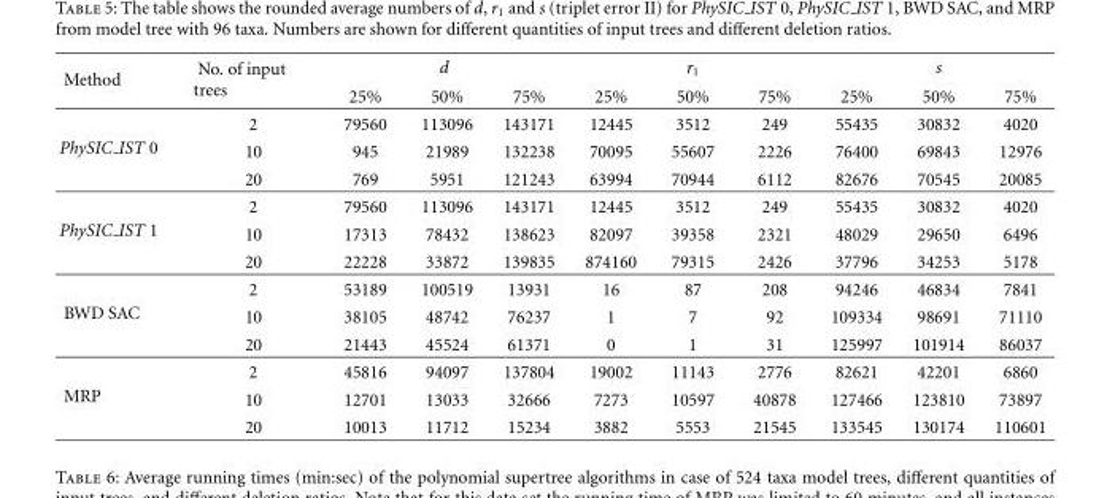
<table><thead><tr><td rowspan="2">Method</td><td rowspan="2">No. of input trees</td><td colspan="3">d</td><td colspan="3">r<sub>1</sub></td><td colspan="3">s</td></tr><tr><td>25%</td><td>50%</td><td>75%</td><td>25%</td><td>50%</td><td>75%</td><td>25%</td><td>50%</td><td>75%</td></tr></thead><tbody><tr><td rowspan="3">PhySIC IST 0</td><td>2</td><td>79560</td><td>113096</td><td>143171</td><td>12445</td><td>3512</td><td>249</td><td>55435</td><td>30832</td><td>4020</td></tr><tr><td>10</td><td>945</td><td>21989</td><td>132238</td><td>70095</td><td>55607</td><td>2226</td><td>76400</td><td>69843</td><td>12976</td></tr><tr><td>20</td><td>769</td><td>5951</td><td>121243</td><td>63994</td><td>70944</td><td>6112</td><td>82676</td><td>70545</td><td>20085</td></tr><tr><td rowspan="3">PhySIC IST 1</td><td>2</td><td>79560</td><td>113096</td><td>143171</td><td>12445</td><td>3512</td><td>249</td><td>55435</td><td>30832</td><td>4020</td></tr><tr><td>10</td><td>17313</td><td>78432</td><td>138623</td><td>82097</td><td>39358</td><td>2321</td><td>48029</td><td>29650</td><td>6496</td></tr><tr><td>20</td><td>22228</td><td>33872</td><td>139835</td><td>874160</td><td>79315</td><td>2426</td><td>37796</td><td>34253</td><td>5178</td></tr><tr><td rowspan="3">BWD SAC</td><td>2</td><td>53189</td><td>100519</td><td>13931</td><td>16</td><td>87</td><td>208</td><td>94246</td><td>46834</td><td>7841</td></tr><tr><td>10</td><td>38105</td><td>48742</td><td>76237</td><td>1</td><td>7</td><td>92</td><td>109334</td><td>98691</td><td>71110</td></tr><tr><td>20</td><td>21443</td><td>45524</td><td>61371</td><td>0</td><td>1</td><td>31</td><td>125997</td><td>101914</td><td>86037</td></tr><tr><td rowspan="3">MRP</td><td>2</td><td>45816</td><td>94097</td><td>137804</td><td>19002</td><td>11143</td><td>2776</td><td>82621</td><td>42201</td><td>6860</td></tr><tr><td>10</td><td>12701</td><td>13033</td><td>32666</td><td>7273</td><td>10597</td><td>40878</td><td>127466</td><td>123810</td><td>73897</td></tr><tr><td>20</td><td>10013</td><td>11712</td><td>15234</td><td>3882</td><td>5553</td><td>21545</td><td>133545</td><td>130174</td><td>110601</td></tr></tbody></table>